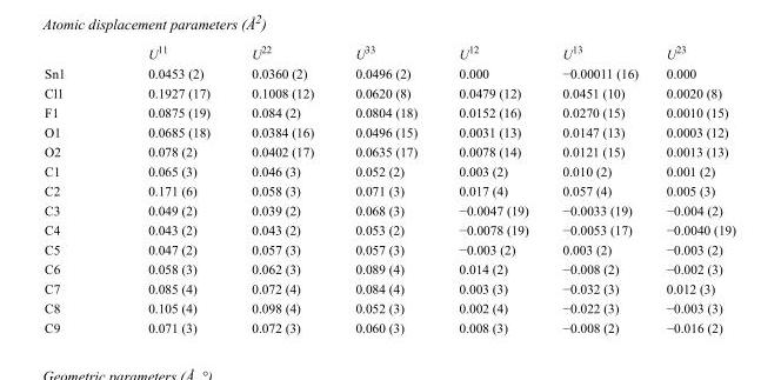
<table><thead><tr><td></td><td>U<sup>11</sup></td><td>U<sup>22</sup></td><td>U<sup>33</sup></td><td>U<sup>12</sup></td><td>U<sup>13</sup></td><td>U<sup>23</sup></td></tr></thead><tbody><tr><td>Sn1</td><td>0.0453 (2)</td><td>0.0360 (2)</td><td>0.0496 (2)</td><td>0.000</td><td>−0.00011 (16)</td><td>0.000</td></tr><tr><td>Cl1</td><td>0.1927 (17)</td><td>0.1008 (12)</td><td>0.0620 (8)</td><td>0.0479 (12)</td><td>0.0451 (10)</td><td>0.0020 (8)</td></tr><tr><td>F1</td><td>0.0875 (19)</td><td>0.084 (2)</td><td>0.0804 (18)</td><td>0.0152 (16)</td><td>0.0270 (15)</td><td>0.0010 (15)</td></tr><tr><td>O1</td><td>0.0685 (18)</td><td>0.0384 (16)</td><td>0.0496 (15)</td><td>0.0031 (13)</td><td>0.0147 (13)</td><td>0.0003 (12)</td></tr><tr><td>O2</td><td>0.078 (2)</td><td>0.0402 (17)</td><td>0.0635 (17)</td><td>0.0078 (14)</td><td>0.0121 (15)</td><td>0.0013 (13)</td></tr><tr><td>C1</td><td>0.065 (3)</td><td>0.046 (3)</td><td>0.052 (2)</td><td>0.003 (2)</td><td>0.010 (2)</td><td>0.001 (2)</td></tr><tr><td>C2</td><td>0.171 (6)</td><td>0.058 (3)</td><td>0.071 (3)</td><td>0.017 (4)</td><td>0.057 (4)</td><td>0.005 (3)</td></tr><tr><td>C3</td><td>0.049 (2)</td><td>0.039 (2)</td><td>0.068 (3)</td><td>−0.0047 (19)</td><td>−0.0033 (19)</td><td>−0.004 (2)</td></tr><tr><td>C4</td><td>0.043 (2)</td><td>0.043 (2)</td><td>0.053 (2)</td><td>−0.0078 (19)</td><td>−0.0053 (17)</td><td>−0.0040 (19)</td></tr><tr><td>C5</td><td>0.047 (2)</td><td>0.057 (3)</td><td>0.057 (3)</td><td>−0.003 (2)</td><td>0.003 (2)</td><td>−0.003 (2)</td></tr><tr><td>C6</td><td>0.058 (3)</td><td>0.062 (3)</td><td>0.089 (4)</td><td>0.014 (2)</td><td>−0.008 (2)</td><td>−0.002 (3)</td></tr><tr><td>C7</td><td>0.085 (4)</td><td>0.072 (4)</td><td>0.084 (4)</td><td>0.003 (3)</td><td>−0.032 (3)</td><td>0.012 (3)</td></tr><tr><td>C8</td><td>0.105 (4)</td><td>0.098 (4)</td><td>0.052 (3)</td><td>0.002 (4)</td><td>−0.022 (3)</td><td>−0.003 (3)</td></tr><tr><td>C9</td><td>0.071 (3)</td><td>0.072 (3)</td><td>0.060 (3)</td><td>0.008 (3)</td><td>−0.008 (2)</td><td>−0.016 (2)</td></tr></tbody></table>